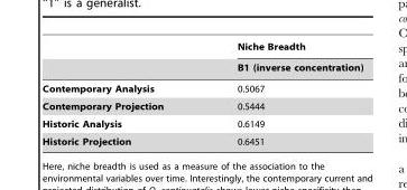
<table><thead><tr><td rowspan="2"></td><td rowspan="2">Niche Breadth B1 (inverse concentration)</td></tr><tr></tr></thead><tbody><tr><td>Contemporary Analysis</td><td>0.5067</td></tr><tr><td>Contemporary Projection</td><td>0.5444</td></tr><tr><td>Historic Analysis</td><td>0.6149</td></tr><tr><td>Historic Projection</td><td>0.6451</td></tr></tbody></table>